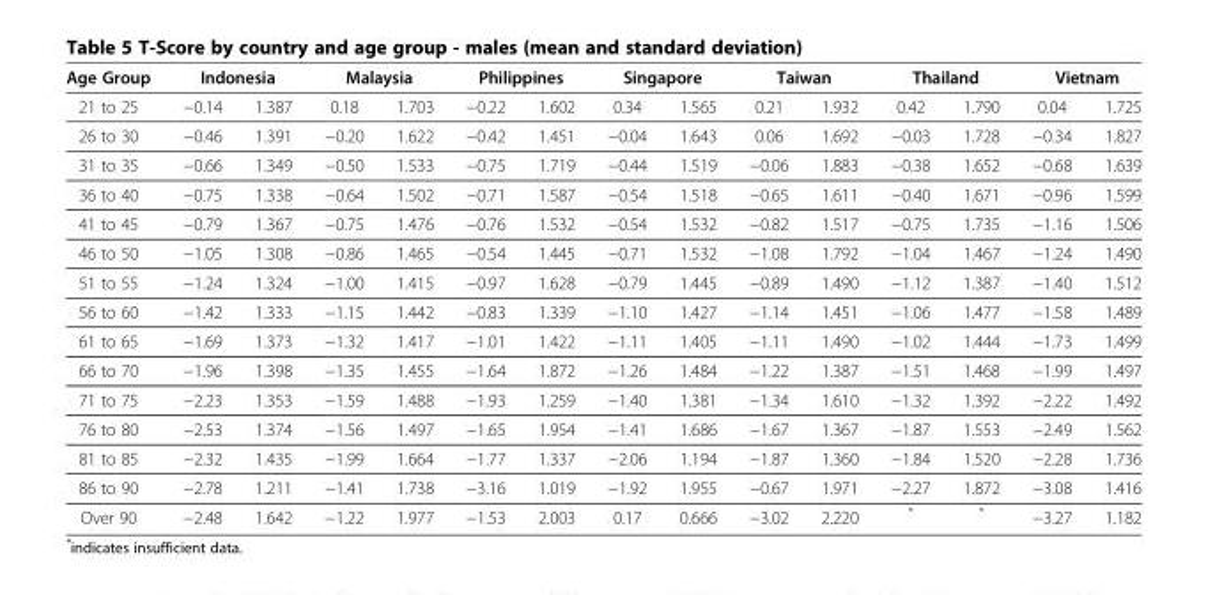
<table><thead><tr><td rowspan="2">Age Group 21 to 25</td><td colspan="2">Indonesia</td><td colspan="2">Malaysia</td><td colspan="2">Philippines</td><td colspan="2">Singapore</td><td colspan="2">Taiwan</td><td colspan="2">Thailand</td><td colspan="2">Vietnam</td></tr><tr><td>−0.14</td><td>1.387</td><td>0.18</td><td>1.703</td><td>−0.22</td><td>1.602</td><td>0.34</td><td>1.565</td><td>0.21</td><td>1.932</td><td>0.42</td><td>1.790</td><td>0.04</td><td>1.725</td></tr></thead><tbody><tr><td>26 to 30</td><td>−0.46</td><td>1.391</td><td>−0.20</td><td>1.622</td><td>−0.42</td><td>1.451</td><td>−0.04</td><td>1.643</td><td>0.06</td><td>1.692</td><td>−0.03</td><td>1.728</td><td>−0.34</td><td>1.827</td></tr><tr><td>31 to 35</td><td>−0.66</td><td>1.349</td><td>−0.50</td><td>1.533</td><td>−0.75</td><td>1.719</td><td>−0.44</td><td>1.519</td><td>−0.06</td><td>1.883</td><td>−0.38</td><td>1.652</td><td>−0.68</td><td>1.639</td></tr><tr><td>36 to 40</td><td>−0.75</td><td>1.338</td><td>−0.64</td><td>1.502</td><td>−0.71</td><td>1.587</td><td>−0.54</td><td>1.518</td><td>−0.65</td><td>1.611</td><td>−0.40</td><td>1.671</td><td>−0.96</td><td>1.599</td></tr><tr><td>41 to 45</td><td>−0.79</td><td>1.367</td><td>−0.75</td><td>1.476</td><td>−0.76</td><td>1.532</td><td>−0.54</td><td>1.532</td><td>−0.82</td><td>1.517</td><td>−0.75</td><td>1.735</td><td>−1.16</td><td>1.506</td></tr><tr><td>46 to 50</td><td>−1.05</td><td>1.308</td><td>−0.86</td><td>1.465</td><td>−0.54</td><td>1.445</td><td>−0.71</td><td>1.532</td><td>−1.08</td><td>1.792</td><td>−1.04</td><td>1.467</td><td>−1.24</td><td>1.490</td></tr><tr><td>51 to 55</td><td>−1.24</td><td>1.324</td><td>−1.00</td><td>1.415</td><td>−0.97</td><td>1.628</td><td>−0.79</td><td>1.445</td><td>−0.89</td><td>1.490</td><td>−1.12</td><td>1.387</td><td>−1.40</td><td>1.512</td></tr><tr><td>56 to 60</td><td>−1.42</td><td>1.333</td><td>−1.15</td><td>1.442</td><td>−0.83</td><td>1.339</td><td>−1.10</td><td>1.427</td><td>−1.14</td><td>1.451</td><td>−1.06</td><td>1.477</td><td>−1.58</td><td>1.489</td></tr><tr><td>61 to 65</td><td>−1.69</td><td>1.373</td><td>−1.32</td><td>1.417</td><td>−1.01</td><td>1.422</td><td>−1.11</td><td>1.405</td><td>−1.11</td><td>1.490</td><td>−1.02</td><td>1.444</td><td>−1.73</td><td>1.499</td></tr><tr><td>66 to 70</td><td>−1.96</td><td>1.398</td><td>−1.35</td><td>1.455</td><td>−1.64</td><td>1.872</td><td>−1.26</td><td>1.484</td><td>−1.22</td><td>1.387</td><td>−1.51</td><td>1.468</td><td>−1.99</td><td>1.497</td></tr><tr><td>71 to 75</td><td>−2.23</td><td>1.353</td><td>−1.59</td><td>1.488</td><td>−1.93</td><td>1.259</td><td>−1.40</td><td>1.381</td><td>−1.34</td><td>1.610</td><td>−1.32</td><td>1.392</td><td>−2.22</td><td>1.492</td></tr><tr><td>76 to 80</td><td>−2.53</td><td>1.374</td><td>−1.56</td><td>1.497</td><td>−1.65</td><td>1.954</td><td>−1.41</td><td>1.686</td><td>−1.67</td><td>1.367</td><td>−1.87</td><td>1.553</td><td>−2.49</td><td>1.562</td></tr><tr><td>81 to 85</td><td>−2.32</td><td>1.435</td><td>−1.99</td><td>1.664</td><td>−1.77</td><td>1.337</td><td>−2.06</td><td>1.194</td><td>−1.87</td><td>1.360</td><td>−1.84</td><td>1.520</td><td>−2.28</td><td>1.736</td></tr><tr><td>86 to 90</td><td>−2.78</td><td>1.211</td><td>−1.41</td><td>1.738</td><td>−3.16</td><td>1.019</td><td>−1.92</td><td>1.955</td><td>−0.67</td><td>1.971</td><td>−2.27</td><td>1.872</td><td>−3.08</td><td>1.416</td></tr><tr><td>Over 90</td><td>−2.48</td><td>1.642</td><td>−1.22</td><td>1.977</td><td>−1.53</td><td>2.003</td><td>0.17</td><td>0.666</td><td>−3.02</td><td>2.220</td><td>*</td><td>*</td><td>−3.27</td><td>1.182</td></tr></tbody></table>